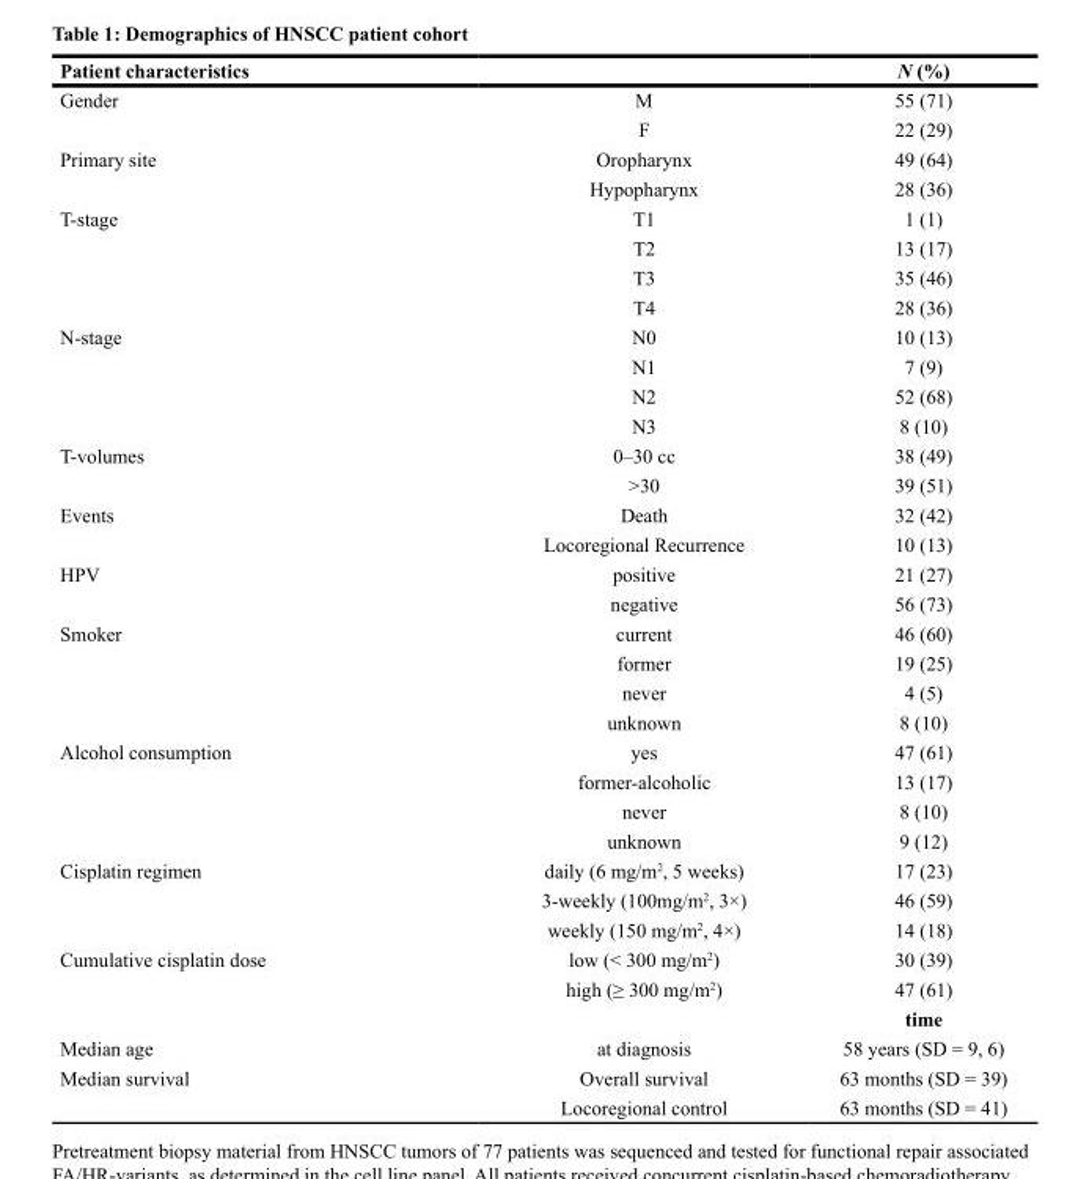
<table><thead><tr><td>Patient characteristics</td><td></td><td>N (%)</td></tr></thead><tbody><tr><td rowspan="2">Gender</td><td>M</td><td>55 (71)</td></tr><tr><td>F</td><td>22 (29)</td></tr><tr><td rowspan="2">Primary site</td><td>Oropharynx</td><td>49 (64)</td></tr><tr><td>Hypopharynx</td><td>28 (36)</td></tr><tr><td rowspan="4">T-stage</td><td>T1</td><td>1 (1)</td></tr><tr><td>T2</td><td>13 (17)</td></tr><tr><td>T3</td><td>35 (46)</td></tr><tr><td>T4</td><td>28 (36)</td></tr><tr><td rowspan="4">N-stage</td><td>N0</td><td>10 (13)</td></tr><tr><td>N1</td><td>7 (9)</td></tr><tr><td>N2</td><td>52 (68)</td></tr><tr><td>N3</td><td>8 (10)</td></tr><tr><td rowspan="2">T-volumes</td><td>0–30 cc</td><td>38 (49)</td></tr><tr><td>&gt;30</td><td>39 (51)</td></tr><tr><td rowspan="2">Events</td><td>Death</td><td>32 (42)</td></tr><tr><td>Locoregional Recurrence</td><td>10 (13)</td></tr><tr><td rowspan="2">HPV</td><td>positive</td><td>21 (27)</td></tr><tr><td>negative</td><td>56 (73)</td></tr><tr><td rowspan="4">Smoker</td><td>current</td><td>46 (60)</td></tr><tr><td>former</td><td>19 (25)</td></tr><tr><td>never</td><td>4 (5)</td></tr><tr><td>unknown</td><td>8 (10)</td></tr><tr><td rowspan="4">Alcohol consumption</td><td>yes</td><td>47 (61)</td></tr><tr><td>former-alcoholic</td><td>13 (17)</td></tr><tr><td>never</td><td>8 (10)</td></tr><tr><td>unknown</td><td>9 (12)</td></tr><tr><td rowspan="3">Cisplatin regimen</td><td>daily (6 mg/m<sup>2</sup>, 5 weeks)</td><td>17 (23)</td></tr><tr><td>3-weekly (100mg/m<sup>2</sup>, 3×)</td><td>46 (59)</td></tr><tr><td>weekly (150 mg/m<sup>2</sup>, 4×)</td><td>14 (18)</td></tr><tr><td rowspan="3">Cumulative cisplatin dose</td><td>low (&lt; 300 mg/m<sup>2</sup>)</td><td>30 (39)</td></tr><tr><td>high (≥ 300 mg/m<sup>2</sup>)</td><td>47 (61)</td></tr><tr><td></td><td>time</td></tr><tr><td>Median age</td><td>at diagnosis</td><td>58 years (SD = 9, 6)</td></tr><tr><td rowspan="2">Median survival</td><td>Overall survival</td><td>63 months (SD = 39)</td></tr><tr><td>Locoregional control</td><td>63 months (SD = 41)</td></tr></tbody></table>